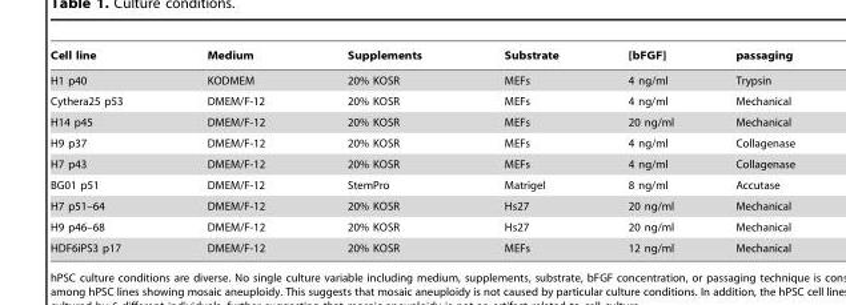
<table><thead><tr><td>Cell line</td><td>Medium</td><td>Supplements</td><td>Substrate</td><td>[bFGF]</td><td>passaging</td></tr></thead><tbody><tr><td>H1 p40</td><td>KODMEM</td><td>20% KOSR</td><td>MEFs</td><td>4 ng/ml</td><td>Trypsin</td></tr><tr><td>Cythera25 p53</td><td>DMEM/F-12</td><td>20% KOSR</td><td>MEFs</td><td>4 ng/ml</td><td>Mechanical</td></tr><tr><td>H14 p45</td><td>DMEM/F-12</td><td>20% KOSR</td><td>MEFs</td><td>20 ng/ml</td><td>Mechanical</td></tr><tr><td>H9 p37</td><td>DMEM/F-12</td><td>20% KOSR</td><td>MEFs</td><td>4 ng/ml</td><td>Collagenase</td></tr><tr><td>H7 p43</td><td>DMEM/F-12</td><td>20% KOSR</td><td>MEFs</td><td>4 ng/ml</td><td>Collagenase</td></tr><tr><td>BG01 p51</td><td>DMEM/F-12</td><td>StemPro</td><td>Matrigel</td><td>8 ng/ml</td><td>Accutase</td></tr><tr><td>H7 p51–64</td><td>DMEM/F-12</td><td>20% KOSR</td><td>Hs27</td><td>20 ng/ml</td><td>Mechanical</td></tr><tr><td>H9 p46–68</td><td>DMEM/F-12</td><td>20% KOSR</td><td>Hs27</td><td>20 ng/ml</td><td>Mechanical</td></tr><tr><td>HDF6iPS3 p17</td><td>DMEM/F-12</td><td>20% KOSR</td><td>MEFs</td><td>12 ng/ml</td><td>Mechanical</td></tr></tbody></table>